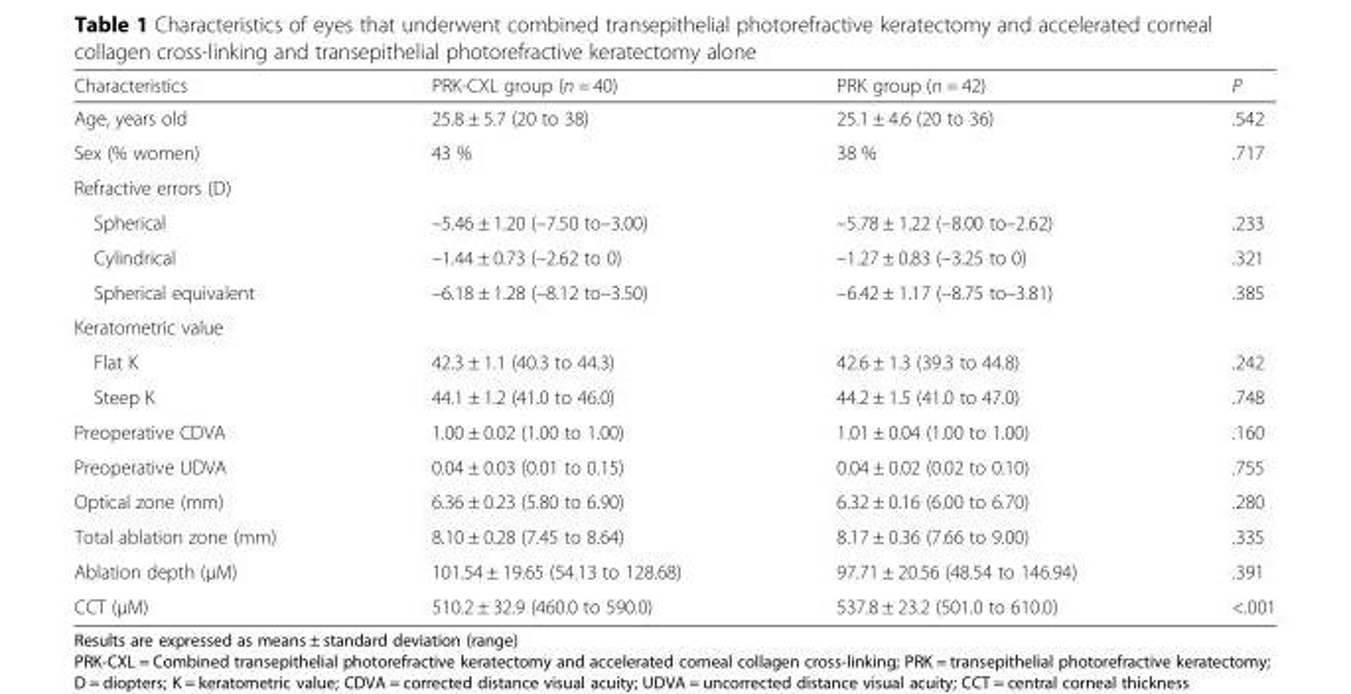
<table><thead><tr><td>Characteristics</td><td>PRK-CXL group (n = 40)</td><td>PRK group (n = 42)</td><td>P</td></tr></thead><tbody><tr><td>Age, years old</td><td>25.8 ± 5.7 (20 to 38)</td><td>25.1 ± 4.6 (20 to 36)</td><td>.542</td></tr><tr><td>Sex (% women)</td><td>43 %</td><td>38 %</td><td>.717</td></tr><tr><td colspan="4">Refractive errors (D)</td></tr><tr><td>Spherical</td><td>–5.46 ± 1.20 (–7.50 to–3.00)</td><td>–5.78 ± 1.22 (–8.00 to–2.62)</td><td>.233</td></tr><tr><td>Cylindrical</td><td>–1.44 ± 0.73 (–2.62 to 0)</td><td>–1.27 ± 0.83 (–3.25 to 0)</td><td>.321</td></tr><tr><td>Spherical equivalent</td><td>–6.18 ± 1.28 (–8.12 to–3.50)</td><td>–6.42 ± 1.17 (–8.75 to–3.81)</td><td>.385</td></tr><tr><td colspan="4">Keratometric value</td></tr><tr><td>Flat K</td><td>42.3 ± 1.1 (40.3 to 44.3)</td><td>42.6 ± 1.3 (39.3 to 44.8)</td><td>.242</td></tr><tr><td>Steep K</td><td>44.1 ± 1.2 (41.0 to 46.0)</td><td>44.2 ± 1.5 (41.0 to 47.0)</td><td>.748</td></tr><tr><td>Preoperative CDVA</td><td>1.00 ± 0.02 (1.00 to 1.00)</td><td>1.01 ± 0.04 (1.00 to 1.00)</td><td>.160</td></tr><tr><td>Preoperative UDVA</td><td>0.04 ± 0.03 (0.01 to 0.15)</td><td>0.04 ± 0.02 (0.02 to 0.10)</td><td>.755</td></tr><tr><td>Optical zone (mm)</td><td>6.36 ± 0.23 (5.80 to 6.90)</td><td>6.32 ± 0.16 (6.00 to 6.70)</td><td>.280</td></tr><tr><td>Total ablation zone (mm)</td><td>8.10 ± 0.28 (7.45 to 8.64)</td><td>8.17 ± 0.36 (7.66 to 9.00)</td><td>.335</td></tr><tr><td>Ablation depth (μM)</td><td>101.54 ± 19.65 (54.13 to 128.68)</td><td>97.71 ± 20.56 (48.54 to 146.94)</td><td>.391</td></tr><tr><td>CCT (μM)</td><td>510.2 ± 32.9 (460.0 to 590.0)</td><td>537.8 ± 23.2 (501.0 to 610.0)</td><td>&lt;.001</td></tr></tbody></table>